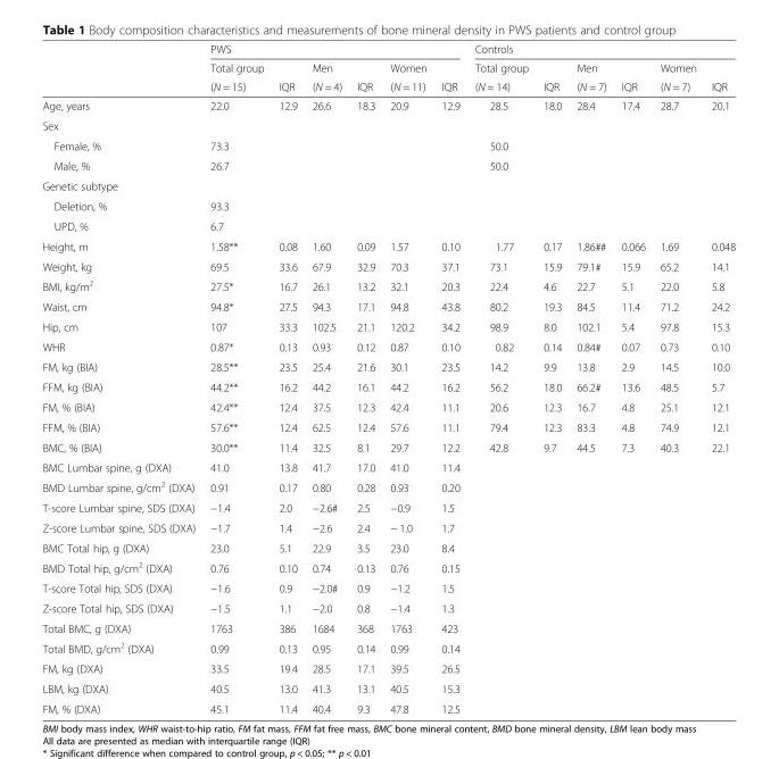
<table><thead><tr><td rowspan="3"></td><td colspan="6">PWS</td><td colspan="6">Controls</td></tr><tr><td rowspan="2">Total group (N = 15)</td><td rowspan="2">IQR</td><td rowspan="2">Men (N = 4)</td><td rowspan="2">IQR</td><td rowspan="2">Women (N = 11)</td><td rowspan="2">IQR</td><td rowspan="2">Total group (N = 14)</td><td rowspan="2">IQR</td><td rowspan="2">Men (N = 7)</td><td rowspan="2">IQR</td><td rowspan="2">Women (N = 7)</td><td rowspan="2">IQR</td></tr><tr></tr></thead><tbody><tr><td>Age, years</td><td>22.0</td><td>12.9</td><td>26.6</td><td>18.3</td><td>20.9</td><td>12.9</td><td>28.5</td><td>18.0</td><td>28.4</td><td>17.4</td><td>28.7</td><td>20.1</td></tr><tr><td colspan="13">Sex</td></tr><tr><td>Female, %</td><td>73.3</td><td></td><td></td><td></td><td></td><td></td><td>50.0</td><td></td><td></td><td></td><td></td><td></td></tr><tr><td>Male, %</td><td>26.7</td><td></td><td></td><td></td><td></td><td></td><td>50.0</td><td></td><td></td><td></td><td></td><td></td></tr><tr><td colspan="13">Genetic subtype</td></tr><tr><td>Deletion, %</td><td>93.3</td><td></td><td></td><td></td><td></td><td></td><td></td><td></td><td></td><td></td><td></td><td></td></tr><tr><td>UPD, %</td><td>6.7</td><td></td><td></td><td></td><td></td><td></td><td></td><td></td><td></td><td></td><td></td><td></td></tr><tr><td>Height, m</td><td>1.58**</td><td>0.08</td><td>1.60</td><td>0.09</td><td>1.57</td><td>0.10</td><td>1.77</td><td>0.17</td><td>1.86##</td><td>0.066</td><td>1.69</td><td>0.048</td></tr><tr><td>Weight, kg</td><td>69.5</td><td>33.6</td><td>67.9</td><td>32.9</td><td>70.3</td><td>37.1</td><td>73.1</td><td>15.9</td><td>79.1#</td><td>15.9</td><td>65.2</td><td>14.1</td></tr><tr><td>BMI, kg/m<sup>2</sup></td><td>27.5*</td><td>16.7</td><td>26.1</td><td>13.2</td><td>32.1</td><td>20.3</td><td>22.4</td><td>4.6</td><td>22.7</td><td>5.1</td><td>22.0</td><td>5.8</td></tr><tr><td>Waist, cm</td><td>94.8*</td><td>27.5</td><td>94.3</td><td>17.1</td><td>94.8</td><td>43.8</td><td>80.2</td><td>19.3</td><td>84.5</td><td>11.4</td><td>71.2</td><td>24.2</td></tr><tr><td>Hip, cm</td><td>107</td><td>33.3</td><td>102.5</td><td>21.1</td><td>120.2</td><td>34.2</td><td>98.9</td><td>8.0</td><td>102.1</td><td>5.4</td><td>97.8</td><td>15.3</td></tr><tr><td>WHR</td><td>0.87*</td><td>0.13</td><td>0.93</td><td>0.12</td><td>0.87</td><td>0.10</td><td>0.82</td><td>0.14</td><td>0.84#</td><td>0.07</td><td>0.73</td><td>0.10</td></tr><tr><td>FM, kg (BIA)</td><td>28.5**</td><td>23.5</td><td>25.4</td><td>21.6</td><td>30.1</td><td>23.5</td><td>14.2</td><td>9.9</td><td>13.8</td><td>2.9</td><td>14.5</td><td>10.0</td></tr><tr><td>FFM, kg (BIA)</td><td>44.2**</td><td>16.2</td><td>44.2</td><td>16.1</td><td>44.2</td><td>16.2</td><td>56.2</td><td>18.0</td><td>66.2#</td><td>13.6</td><td>48.5</td><td>5.7</td></tr><tr><td>FM, % (BIA)</td><td>42.4**</td><td>12.4</td><td>37.5</td><td>12.3</td><td>42.4</td><td>11.1</td><td>20.6</td><td>12.3</td><td>16.7</td><td>4.8</td><td>25.1</td><td>12.1</td></tr><tr><td>FFM, % (BIA)</td><td>57.6**</td><td>12.4</td><td>62.5</td><td>12.4</td><td>57.6</td><td>11.1</td><td>79.4</td><td>12.3</td><td>83.3</td><td>4.8</td><td>74.9</td><td>12.1</td></tr><tr><td>BMC, % (BIA)</td><td>30.0**</td><td>11.4</td><td>32.5</td><td>8.1</td><td>29.7</td><td>12.2</td><td>42.8</td><td>9.7</td><td>44.5</td><td>7.3</td><td>40.3</td><td>22.1</td></tr><tr><td>BMC Lumbar spine, g (DXA)</td><td>41.0</td><td>13.8</td><td>41.7</td><td>17.0</td><td>41.0</td><td>11.4</td><td rowspan="13" colspan="6"></td></tr><tr><td>BMD Lumbar spine, g/cm<sup>2</sup> (DXA)</td><td>0.91</td><td>0.17</td><td>0.80</td><td>0.28</td><td>0.93</td><td>0.20</td></tr><tr><td>T-score Lumbar spine, SDS (DXA)</td><td>−1.4</td><td>2.0</td><td>−2.6#</td><td>2.5</td><td>−0.9</td><td>1.5</td></tr><tr><td>Z-score Lumbar spine, SDS (DXA)</td><td>−1.7</td><td>1.4</td><td>−2.6</td><td>2.4</td><td>− 1.0</td><td>1.7</td></tr><tr><td>BMC Total hip, g (DXA)</td><td>23.0</td><td>5.1</td><td>22.9</td><td>3.5</td><td>23.0</td><td>8.4</td></tr><tr><td>BMD Total hip, g/cm<sup>2</sup> (DXA)</td><td>0.76</td><td>0.10</td><td>0.74</td><td>0.13</td><td>0.76</td><td>0.15</td></tr><tr><td>T-score Total hip, SDS (DXA)</td><td>−1.6</td><td>0.9</td><td>−2.0#</td><td>0.9</td><td>−1.2</td><td>1.5</td></tr><tr><td>Z-score Total hip, SDS (DXA)</td><td>−1.5</td><td>1.1</td><td>−2.0</td><td>0.8</td><td>−1.4</td><td>1.3</td></tr><tr><td>Total BMC, g (DXA)</td><td>1763</td><td>386</td><td>1684</td><td>368</td><td>1763</td><td>423</td></tr><tr><td>Total BMD, g/cm<sup>2</sup> (DXA)</td><td>0.99</td><td>0.13</td><td>0.95</td><td>0.14</td><td>0.99</td><td>0.14</td></tr><tr><td>FM, kg (DXA)</td><td>33.5</td><td>19.4</td><td>28.5</td><td>17.1</td><td>39.5</td><td>26.5</td></tr><tr><td>LBM, kg (DXA)</td><td>40.5</td><td>13.0</td><td>41.3</td><td>13.1</td><td>40.5</td><td>15.3</td></tr><tr><td>FM, % (DXA)</td><td>45.1</td><td>11.4</td><td>40.4</td><td>9.3</td><td>47.8</td><td>12.5</td></tr></tbody></table>